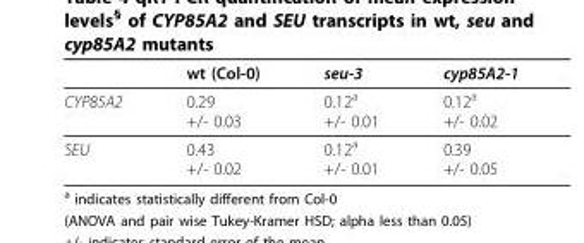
<table><thead><tr><td></td><td>wt (Col-0)</td><td>seu-3</td><td>cyp85A2-1</td></tr></thead><tbody><tr><td>CYP85A2</td><td>0.29 +/- 0.03</td><td>0.12<sup>a</sup> +/- 0.01</td><td>0.12<sup>a</sup> +/- 0.02</td></tr><tr><td>SEU</td><td>0.43 +/- 0.02</td><td>0.12<sup>a</sup> +/- 0.01</td><td>0.39 +/- 0.05</td></tr></tbody></table>